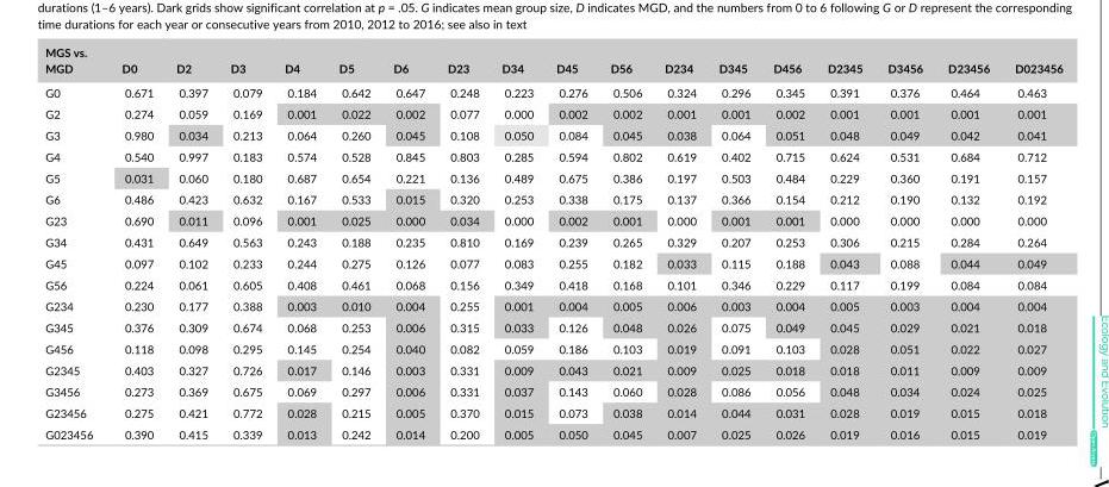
<table><thead><tr><td>MGS vs. MGD</td><td>D0</td><td>D2</td><td>D3</td><td>D4</td><td>D5</td><td>D6</td><td>D23</td><td>D34</td><td>D45</td><td>D56</td><td>D234</td><td>D345</td><td>D456</td><td>D2345</td><td>D3456</td><td>D23456</td><td>D023456</td></tr></thead><tbody><tr><td>G0</td><td>0.671</td><td>0.397</td><td>0.079</td><td>0.184</td><td>0.642</td><td>0.647</td><td>0.248</td><td>0.223</td><td>0.276</td><td>0.506</td><td>0.324</td><td>0.296</td><td>0.345</td><td>0.391</td><td>0.376</td><td>0.464</td><td>0.463</td></tr><tr><td>G2</td><td>0.274</td><td>0.059</td><td>0.169</td><td>0.001</td><td>0.022</td><td>0.002</td><td>0.077</td><td>0.000</td><td>0.002</td><td>0.002</td><td>0.001</td><td>0.001</td><td>0.002</td><td>0.001</td><td>0.001</td><td>0.001</td><td>0.001</td></tr><tr><td>G3</td><td>0.980</td><td>0.034</td><td>0.213</td><td>0.064</td><td>0.260</td><td>0.045</td><td>0.108</td><td>0.050</td><td>0.084</td><td>0.045</td><td>0.038</td><td>0.064</td><td>0.051</td><td>0.048</td><td>0.049</td><td>0.042</td><td>0.041</td></tr><tr><td>G4</td><td>0.540</td><td>0.997</td><td>0.183</td><td>0.574</td><td>0.528</td><td>0.845</td><td>0.803</td><td>0.285</td><td>0.594</td><td>0.802</td><td>0.619</td><td>0.402</td><td>0.715</td><td>0.624</td><td>0.531</td><td>0.684</td><td>0.712</td></tr><tr><td>G5</td><td>0.031</td><td>0.060</td><td>0.180</td><td>0.687</td><td>0.654</td><td>0.221</td><td>0.136</td><td>0.489</td><td>0.675</td><td>0.386</td><td>0.197</td><td>0.503</td><td>0.484</td><td>0.229</td><td>0.360</td><td>0.191</td><td>0.157</td></tr><tr><td>G6</td><td>0.486</td><td>0.423</td><td>0.632</td><td>0.167</td><td>0.533</td><td>0.015</td><td>0.320</td><td>0.253</td><td>0.338</td><td>0.175</td><td>0.137</td><td>0.366</td><td>0.154</td><td>0.212</td><td>0.190</td><td>0.132</td><td>0.192</td></tr><tr><td>G23</td><td>0.690</td><td>0.011</td><td>0.096</td><td>0.001</td><td>0.025</td><td>0.000</td><td>0.034</td><td>0.000</td><td>0.002</td><td>0.001</td><td>0.000</td><td>0.001</td><td>0.001</td><td>0.000</td><td>0.000</td><td>0.000</td><td>0.000</td></tr><tr><td>G34</td><td>0.431</td><td>0.649</td><td>0.563</td><td>0.243</td><td>0.188</td><td>0.235</td><td>0.810</td><td>0.169</td><td>0.239</td><td>0.265</td><td>0.329</td><td>0.207</td><td>0.253</td><td>0.306</td><td>0.215</td><td>0.284</td><td>0.264</td></tr><tr><td>G45</td><td>0.097</td><td>0.102</td><td>0.233</td><td>0.244</td><td>0.275</td><td>0.126</td><td>0.077</td><td>0.083</td><td>0.255</td><td>0.182</td><td>0.033</td><td>0.115</td><td>0.188</td><td>0.043</td><td>0.088</td><td>0.044</td><td>0.049</td></tr><tr><td>G56</td><td>0.224</td><td>0.061</td><td>0.605</td><td>0.408</td><td>0.461</td><td>0.068</td><td>0.156</td><td>0.349</td><td>0.418</td><td>0.168</td><td>0.101</td><td>0.346</td><td>0.229</td><td>0.117</td><td>0.199</td><td>0.084</td><td>0.084</td></tr><tr><td>G234</td><td>0.230</td><td>0.177</td><td>0.388</td><td>0.003</td><td>0.010</td><td>0.004</td><td>0.255</td><td>0.001</td><td>0.004</td><td>0.005</td><td>0.006</td><td>0.003</td><td>0.004</td><td>0.005</td><td>0.003</td><td>0.004</td><td>0.004</td></tr><tr><td>G345</td><td>0.376</td><td>0.309</td><td>0.674</td><td>0.068</td><td>0.253</td><td>0.006</td><td>0.315</td><td>0.033</td><td>0.126</td><td>0.048</td><td>0.026</td><td>0.075</td><td>0.049</td><td>0.045</td><td>0.029</td><td>0.021</td><td>0.018</td></tr><tr><td>G456</td><td>0.118</td><td>0.098</td><td>0.295</td><td>0.145</td><td>0.254</td><td>0.040</td><td>0.082</td><td>0.059</td><td>0.186</td><td>0.103</td><td>0.019</td><td>0.091</td><td>0.103</td><td>0.028</td><td>0.051</td><td>0.022</td><td>0.027</td></tr><tr><td>G2345</td><td>0.403</td><td>0.327</td><td>0.726</td><td>0.017</td><td>0.146</td><td>0.003</td><td>0.331</td><td>0.009</td><td>0.043</td><td>0.021</td><td>0.009</td><td>0.025</td><td>0.018</td><td>0.018</td><td>0.011</td><td>0.009</td><td>0.009</td></tr><tr><td>G3456</td><td>0.273</td><td>0.369</td><td>0.675</td><td>0.069</td><td>0.297</td><td>0.006</td><td>0.331</td><td>0.037</td><td>0.143</td><td>0.060</td><td>0.028</td><td>0.086</td><td>0.056</td><td>0.048</td><td>0.034</td><td>0.024</td><td>0.025</td></tr><tr><td>G23456</td><td>0.275</td><td>0.421</td><td>0.772</td><td>0.028</td><td>0.215</td><td>0.005</td><td>0.370</td><td>0.015</td><td>0.073</td><td>0.038</td><td>0.014</td><td>0.044</td><td>0.031</td><td>0.028</td><td>0.019</td><td>0.015</td><td>0.018</td></tr><tr><td>G023456</td><td>0.390</td><td>0.415</td><td>0.339</td><td>0.013</td><td>0.242</td><td>0.014</td><td>0.200</td><td>0.005</td><td>0.050</td><td>0.045</td><td>0.007</td><td>0.025</td><td>0.026</td><td>0.019</td><td>0.016</td><td>0.015</td><td>0.019</td></tr></tbody></table>